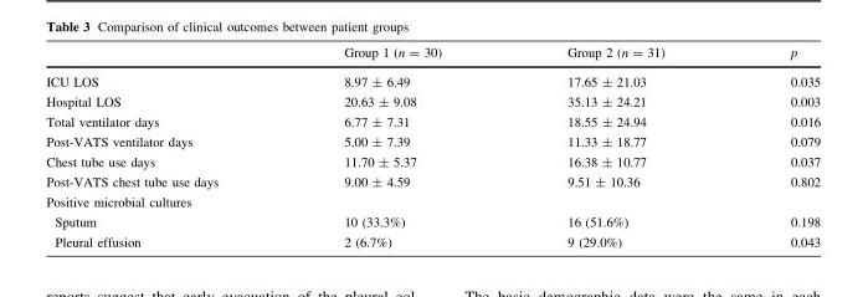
<table><thead><tr><td></td><td>Group 1 (n = 30)</td><td>Group 2 (n = 31)</td><td>p</td></tr></thead><tbody><tr><td>ICU LOS</td><td>8.97 ± 6.49</td><td>17.65 ± 21.03</td><td>0.035</td></tr><tr><td>Hospital LOS</td><td>20.63 ± 9.08</td><td>35.13 ± 24.21</td><td>0.003</td></tr><tr><td>Total ventilator days</td><td>6.77 ± 7.31</td><td>18.55 ± 24.94</td><td>0.016</td></tr><tr><td>Post-VATS ventilator days</td><td>5.00 ± 7.39</td><td>11.33 ± 18.77</td><td>0.079</td></tr><tr><td>Chest tube use days</td><td>11.70 ± 5.37</td><td>16.38 ± 10.77</td><td>0.037</td></tr><tr><td>Post-VATS chest tube use days</td><td>9.00 ± 4.59</td><td>9.51 ± 10.36</td><td>0.802</td></tr><tr><td colspan="4">Positive microbial cultures</td></tr><tr><td>Sputum</td><td>10 (33.3%)</td><td>16 (51.6%)</td><td>0.198</td></tr><tr><td>Pleural effusion</td><td>2 (6.7%)</td><td>9 (29.0%)</td><td>0.043</td></tr></tbody></table>